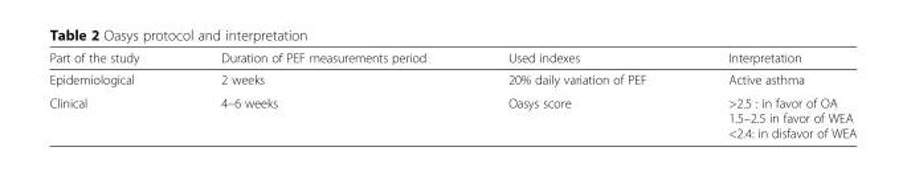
<table><thead><tr><td>Part of the study</td><td>Duration of PEF measurements period</td><td>Used indexes</td><td>Interpretation</td></tr></thead><tbody><tr><td>Epidemiological</td><td>2 weeks</td><td>20% daily variation of PEF</td><td>Active asthma</td></tr><tr><td>Clinical</td><td>4–6 weeks</td><td>Oasys score</td><td>&gt;2.5 : in favor of OA 1.5–2.5 in favor of WEA &lt;2.4: in disfavor of WEA</td></tr></tbody></table>